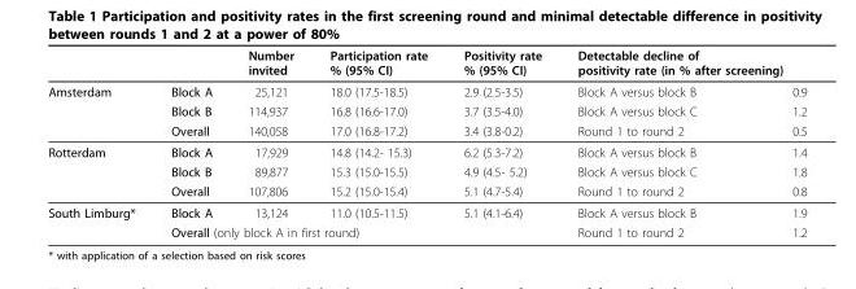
<table><thead><tr><td rowspan="2">Amsterdam</td><td rowspan="2">Block A</td><td rowspan="2">Number invited 25,121</td><td rowspan="2">Participation rate % (95% CI) 18.0 (17.5-18.5)</td><td rowspan="2">Positivity rate % (95% CI) 2.9 (2.5-3.5)</td><td colspan="2">Detectable decline of positivity rate (in % after screening)</td></tr><tr><td>Block A versus block B</td><td>0.9</td></tr></thead><tbody><tr><td></td><td>Block B</td><td>114,937</td><td>16.8 (16.6-17.0)</td><td>3.7 (3.5-4.0)</td><td>Block A versus block C</td><td>1.2</td></tr><tr><td></td><td>Overall</td><td>140,058</td><td>17.0 (16.8-17.2)</td><td>3.4 (3.8-0.2)</td><td>Round 1 to round 2</td><td>0.5</td></tr><tr><td rowspan="3">Rotterdam</td><td>Block A</td><td>17,929</td><td>14.8 (14.2- 15.3)</td><td>6.2 (5.3-7.2)</td><td>Block A versus block B</td><td>1.4</td></tr><tr><td>Block B</td><td>89,877</td><td>15.3 (15.0-15.5)</td><td>4.9 (4.5- 5.2)</td><td>Block A versus block C</td><td>1.8</td></tr><tr><td>Overall</td><td>107,806</td><td>15.2 (15.0-15.4)</td><td>5.1 (4.7-5.4)</td><td>Round 1 to round 2</td><td>0.8</td></tr><tr><td rowspan="2">South Limburg*</td><td>Block A</td><td>13,124</td><td>11.0 (10.5-11.5)</td><td>5.1 (4.1-6.4)</td><td>Block A versus block B</td><td>1.9</td></tr><tr><td colspan="4">Overall (only block A in first round)</td><td>Round 1 to round 2</td><td>1.2</td></tr></tbody></table>